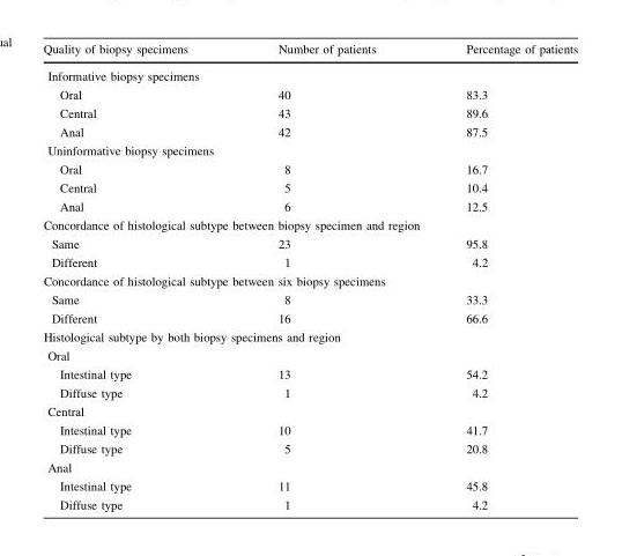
<table><thead><tr><td>Quality of biopsy specimens</td><td>Number of patients</td><td>Percentage of patients</td></tr></thead><tbody><tr><td colspan="3">Informative biopsy specimens</td></tr><tr><td>Oral</td><td>40</td><td>83.3</td></tr><tr><td>Central</td><td>43</td><td>89.6</td></tr><tr><td>Anal</td><td>42</td><td>87.5</td></tr><tr><td colspan="3">Uninformative biopsy specimens</td></tr><tr><td>Oral</td><td>8</td><td>16.7</td></tr><tr><td>Central</td><td>5</td><td>10.4</td></tr><tr><td>Anal</td><td>6</td><td>12.5</td></tr><tr><td colspan="3">Concordance of histological subtype between biopsy specimen and region</td></tr><tr><td>Same</td><td>23</td><td>95.8</td></tr><tr><td>Different</td><td>1</td><td>4.2</td></tr><tr><td colspan="3">Concordance of histological subtype between six biopsy specimens</td></tr><tr><td>Same</td><td>8</td><td>33.3</td></tr><tr><td>Different</td><td>16</td><td>66.6</td></tr><tr><td colspan="3">Histological subtype by both biopsy specimens and region</td></tr><tr><td colspan="3">Oral</td></tr><tr><td>Intestinal type</td><td>13</td><td>54.2</td></tr><tr><td>Diffuse type</td><td>1</td><td>4.2</td></tr><tr><td colspan="3">Central</td></tr><tr><td>Intestinal type</td><td>10</td><td>41.7</td></tr><tr><td>Diffuse type</td><td>5</td><td>20.8</td></tr><tr><td colspan="3">Anal</td></tr><tr><td>Intestinal type</td><td>11</td><td>45.8</td></tr><tr><td>Diffuse type</td><td>1</td><td>4.2</td></tr></tbody></table>